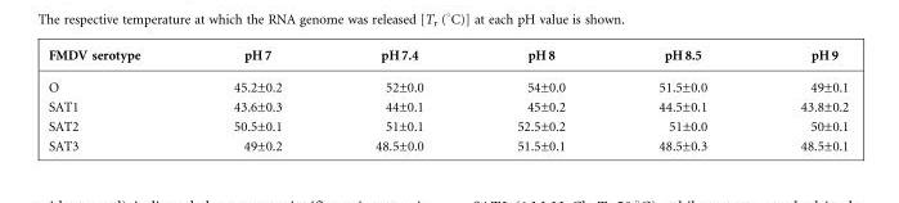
<table><thead><tr><td>FMDV serotype</td><td>pH 7</td><td>pH 7.4</td><td>pH 8</td><td>pH 8.5</td><td>pH 9</td></tr></thead><tbody><tr><td>O</td><td>45.2±0.2</td><td>52±0.0</td><td>54±0.0</td><td>51.5±0.0</td><td>49±0.1</td></tr><tr><td>SAT1</td><td>43.6±0.3</td><td>44±0.1</td><td>45±0.2</td><td>44.5±0.1</td><td>43.8±0.2</td></tr><tr><td>SAT2</td><td>50.5±0.1</td><td>51±0.1</td><td>52.5±0.2</td><td>51±0.0</td><td>50±0.1</td></tr><tr><td>SAT3</td><td>49±0.2</td><td>48.5±0.0</td><td>51.5±0.1</td><td>48.5±0.3</td><td>48.5±0.1</td></tr></tbody></table>